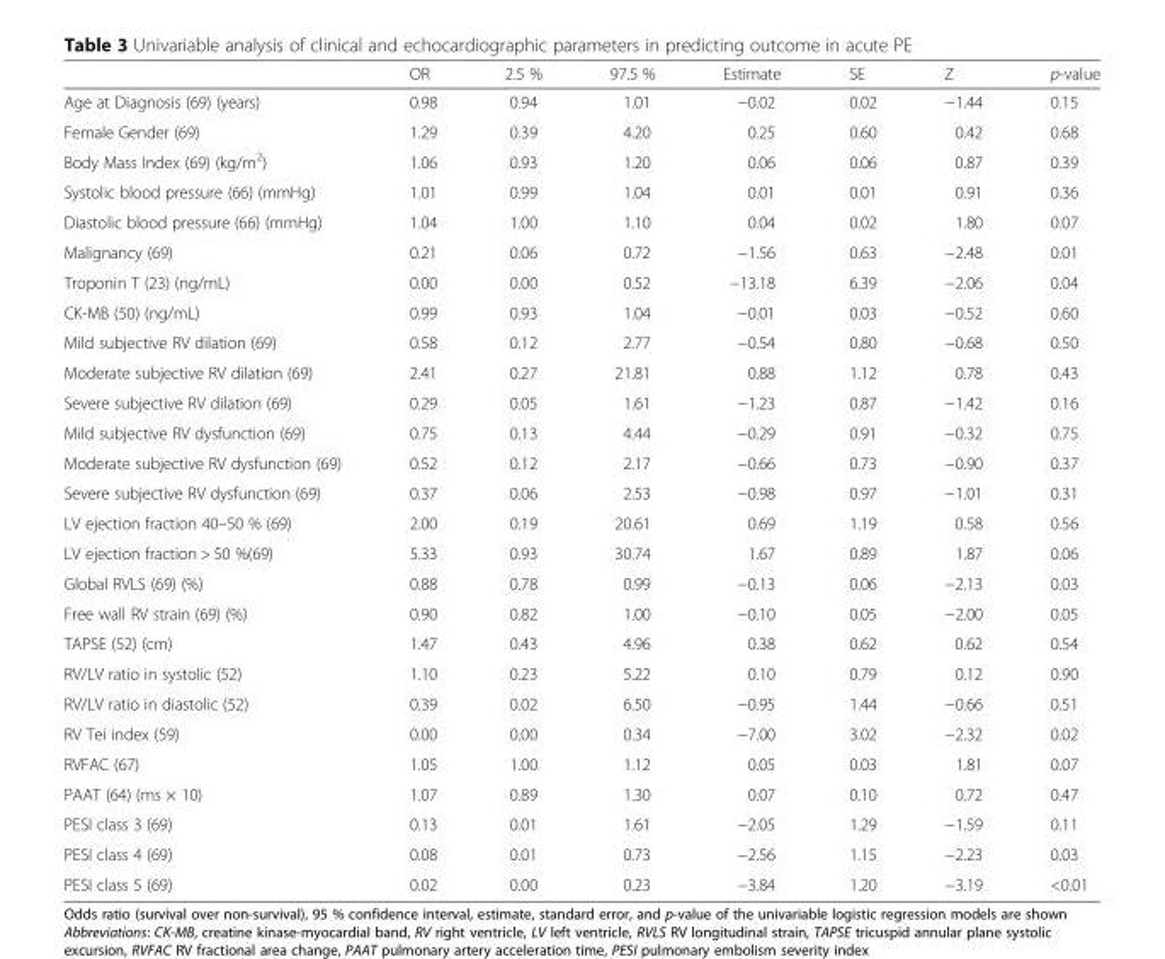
<table><thead><tr><td></td><td>OR</td><td>2.5 %</td><td>97.5 %</td><td>Estimate</td><td>SE</td><td>Z</td><td>p-value</td></tr></thead><tbody><tr><td>Age at Diagnosis (69) (years)</td><td>0.98</td><td>0.94</td><td>1.01</td><td>−0.02</td><td>0.02</td><td>−1.44</td><td>0.15</td></tr><tr><td>Female Gender (69)</td><td>1.29</td><td>0.39</td><td>4.20</td><td>0.25</td><td>0.60</td><td>0.42</td><td>0.68</td></tr><tr><td>Body Mass Index (69) (kg/m<sup>2</sup>)</td><td>1.06</td><td>0.93</td><td>1.20</td><td>0.06</td><td>0.06</td><td>0.87</td><td>0.39</td></tr><tr><td>Systolic blood pressure (66) (mmHg)</td><td>1.01</td><td>0.99</td><td>1.04</td><td>0.01</td><td>0.01</td><td>0.91</td><td>0.36</td></tr><tr><td>Diastolic blood pressure (66) (mmHg)</td><td>1.04</td><td>1.00</td><td>1.10</td><td>0.04</td><td>0.02</td><td>1.80</td><td>0.07</td></tr><tr><td>Malignancy (69)</td><td>0.21</td><td>0.06</td><td>0.72</td><td>−1.56</td><td>0.63</td><td>−2.48</td><td>0.01</td></tr><tr><td>Troponin T (23) (ng/mL)</td><td>0.00</td><td>0.00</td><td>0.52</td><td>−13.18</td><td>6.39</td><td>−2.06</td><td>0.04</td></tr><tr><td>CK-MB (50) (ng/mL)</td><td>0.99</td><td>0.93</td><td>1.04</td><td>−0.01</td><td>0.03</td><td>−0.52</td><td>0.60</td></tr><tr><td>Mild subjective RV dilation (69)</td><td>0.58</td><td>0.12</td><td>2.77</td><td>−0.54</td><td>0.80</td><td>−0.68</td><td>0.50</td></tr><tr><td>Moderate subjective RV dilation (69)</td><td>2.41</td><td>0.27</td><td>21.81</td><td>0.88</td><td>1.12</td><td>0.78</td><td>0.43</td></tr><tr><td>Severe subjective RV dilation (69)</td><td>0.29</td><td>0.05</td><td>1.61</td><td>−1.23</td><td>0.87</td><td>−1.42</td><td>0.16</td></tr><tr><td>Mild subjective RV dysfunction (69)</td><td>0.75</td><td>0.13</td><td>4.44</td><td>−0.29</td><td>0.91</td><td>−0.32</td><td>0.75</td></tr><tr><td>Moderate subjective RV dysfunction (69)</td><td>0.52</td><td>0.12</td><td>2.17</td><td>−0.66</td><td>0.73</td><td>−0.90</td><td>0.37</td></tr><tr><td>Severe subjective RV dysfunction (69)</td><td>0.37</td><td>0.06</td><td>2.53</td><td>−0.98</td><td>0.97</td><td>−1.01</td><td>0.31</td></tr><tr><td>LV ejection fraction 40–50 % (69)</td><td>2.00</td><td>0.19</td><td>20.61</td><td>0.69</td><td>1.19</td><td>0.58</td><td>0.56</td></tr><tr><td>LV ejection fraction &gt; 50 %(69)</td><td>5.33</td><td>0.93</td><td>30.74</td><td>1.67</td><td>0.89</td><td>1.87</td><td>0.06</td></tr><tr><td>Global RVLS (69) (%)</td><td>0.88</td><td>0.78</td><td>0.99</td><td>−0.13</td><td>0.06</td><td>−2.13</td><td>0.03</td></tr><tr><td>Free wall RV strain (69) (%)</td><td>0.90</td><td>0.82</td><td>1.00</td><td>−0.10</td><td>0.05</td><td>−2.00</td><td>0.05</td></tr><tr><td>TAPSE (52) (cm)</td><td>1.47</td><td>0.43</td><td>4.96</td><td>0.38</td><td>0.62</td><td>0.62</td><td>0.54</td></tr><tr><td>RV/LV ratio in systolic (52)</td><td>1.10</td><td>0.23</td><td>5.22</td><td>0.10</td><td>0.79</td><td>0.12</td><td>0.90</td></tr><tr><td>RV/LV ratio in diastolic (52)</td><td>0.39</td><td>0.02</td><td>6.50</td><td>−0.95</td><td>1.44</td><td>−0.66</td><td>0.51</td></tr><tr><td>RV Tei index (59)</td><td>0.00</td><td>0.00</td><td>0.34</td><td>−7.00</td><td>3.02</td><td>−2.32</td><td>0.02</td></tr><tr><td>RVFAC (67)</td><td>1.05</td><td>1.00</td><td>1.12</td><td>0.05</td><td>0.03</td><td>1.81</td><td>0.07</td></tr><tr><td>PAAT (64) (ms × 10)</td><td>1.07</td><td>0.89</td><td>1.30</td><td>0.07</td><td>0.10</td><td>0.72</td><td>0.47</td></tr><tr><td>PESI class 3 (69)</td><td>0.13</td><td>0.01</td><td>1.61</td><td>−2.05</td><td>1.29</td><td>−1.59</td><td>0.11</td></tr><tr><td>PESI class 4 (69)</td><td>0.08</td><td>0.01</td><td>0.73</td><td>−2.56</td><td>1.15</td><td>−2.23</td><td>0.03</td></tr><tr><td>PESI class 5 (69)</td><td>0.02</td><td>0.00</td><td>0.23</td><td>−3.84</td><td>1.20</td><td>−3.19</td><td>&lt;0.01</td></tr></tbody></table>